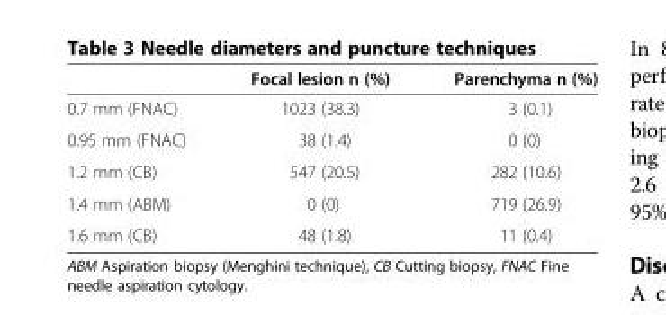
<table><thead><tr><td></td><td>Focal lesion n (%)</td><td>Parenchyma n (%)</td></tr></thead><tbody><tr><td>0.7 mm (FNAC)</td><td>1023 (38.3)</td><td>3 (0.1)</td></tr><tr><td>0.95 mm (FNAC)</td><td>38 (1.4)</td><td>0 (0)</td></tr><tr><td>1.2 mm (CB)</td><td>547 (20.5)</td><td>282 (10.6)</td></tr><tr><td>1.4 mm (ABM)</td><td>0 (0)</td><td>719 (26.9)</td></tr><tr><td>1.6 mm (CB)</td><td>48 (1.8)</td><td>11 (0.4)</td></tr></tbody></table>